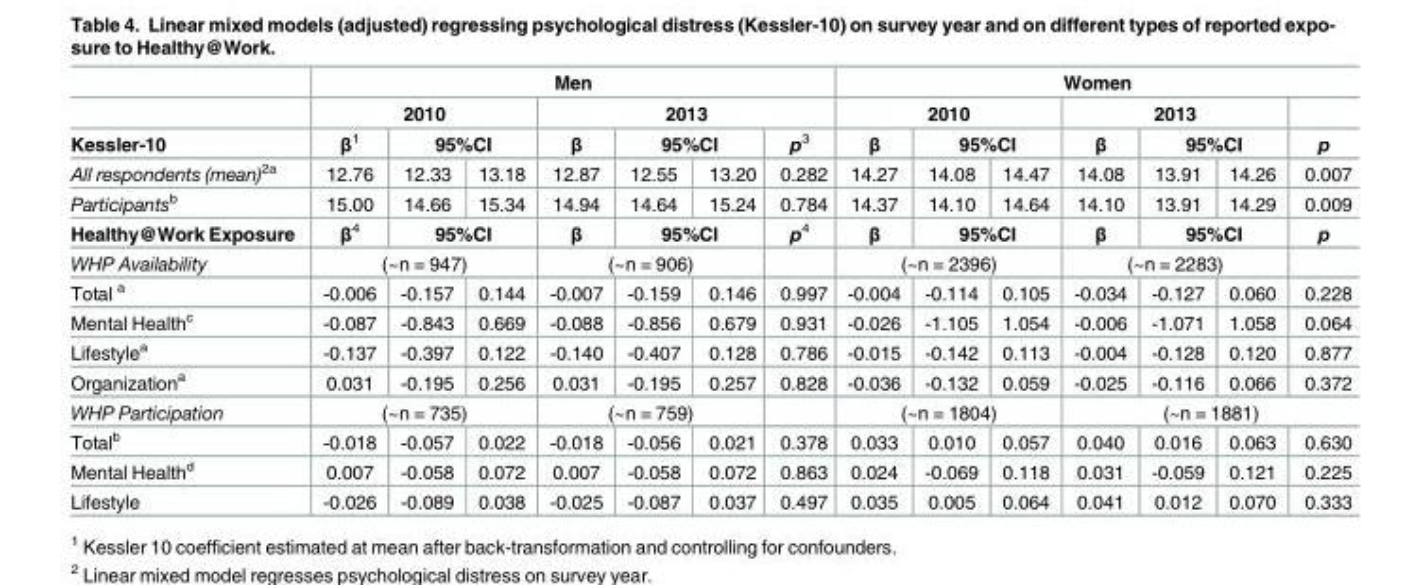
<table><thead><tr><td rowspan="4">Kessler-10 All respondents (mean)<sup>2a</sup></td><td colspan="7">Men</td><td colspan="7">Women</td></tr><tr><td colspan="3">2010</td><td colspan="4">2013</td><td colspan="3">2010</td><td colspan="3">2013</td><td rowspan="3">p 0.007</td></tr><tr><td rowspan="2">β<sup>1</sup> 12.76</td><td colspan="2">95%CI</td><td rowspan="2">β 12.87</td><td colspan="2">95%CI</td><td rowspan="2">p<sup>3</sup> 0.282</td><td rowspan="2">β 14.27</td><td colspan="2">95%CI</td><td rowspan="2">β 14.08</td><td colspan="2">95%CI</td></tr><tr><td>12.33</td><td>13.18</td><td>12.55</td><td>13.20</td><td>14.08</td><td>14.47</td><td>13.91</td><td>14.26</td></tr></thead><tbody><tr><td>Participants<sup>b</sup></td><td>15.00</td><td>14.66</td><td>15.34</td><td>14.94</td><td>14.64</td><td>15.24</td><td>0.784</td><td>14.37</td><td>14.10</td><td>14.64</td><td>14.10</td><td>13.91</td><td>14.29</td><td>0.009</td></tr><tr><td>Healthy@Work Exposure</td><td>β<sup>4</sup></td><td colspan="2">95%CI</td><td>β</td><td colspan="2">95%CI</td><td>p<sup>4</sup></td><td>β</td><td colspan="2">95%CI</td><td>β</td><td colspan="2">95%CI</td><td>p</td></tr><tr><td>WHP Availability</td><td colspan="3">(~n = 947)</td><td colspan="3">(~n = 906)</td><td></td><td colspan="3">(~n = 2396)</td><td colspan="3">(~n = 2283)</td><td></td></tr><tr><td>Total <sup>a</sup></td><td>-0.006</td><td>-0.157</td><td>0.144</td><td>-0.007</td><td>-0.159</td><td>0.146</td><td>0.997</td><td>-0.004</td><td>-0.114</td><td>0.105</td><td>-0.034</td><td>-0.127</td><td>0.060</td><td>0.228</td></tr><tr><td>Mental Health<sup>c</sup></td><td>-0.087</td><td>-0.843</td><td>0.669</td><td>-0.088</td><td>-0.856</td><td>0.679</td><td>0.931</td><td>-0.026</td><td>-1.105</td><td>1.054</td><td>-0.006</td><td>-1.071</td><td>1.058</td><td>0.064</td></tr><tr><td>Lifestyle<sup>a</sup></td><td>-0.137</td><td>-0.397</td><td>0.122</td><td>-0.140</td><td>-0.407</td><td>0.128</td><td>0.786</td><td>-0.015</td><td>-0.142</td><td>0.113</td><td>-0.004</td><td>-0.128</td><td>0.120</td><td>0.877</td></tr><tr><td>Organization<sup>a</sup></td><td>0.031</td><td>-0.195</td><td>0.256</td><td>0.031</td><td>-0.195</td><td>0.257</td><td>0.828</td><td>-0.036</td><td>-0.132</td><td>0.059</td><td>-0.025</td><td>-0.116</td><td>0.066</td><td>0.372</td></tr><tr><td>WHP Participation</td><td colspan="3">(~n = 735)</td><td colspan="3">(~n = 759)</td><td></td><td colspan="3">(~n = 1804)</td><td colspan="4">(~n = 1881)</td></tr><tr><td>Total<sup>b</sup></td><td>-0.018</td><td>-0.057</td><td>0.022</td><td>-0.018</td><td>-0.056</td><td>0.021</td><td>0.378</td><td>0.033</td><td>0.010</td><td>0.057</td><td>0.040</td><td>0.016</td><td>0.063</td><td>0.630</td></tr><tr><td>Mental Health<sup>d</sup></td><td>0.007</td><td>-0.058</td><td>0.072</td><td>0.007</td><td>-0.058</td><td>0.072</td><td>0.863</td><td>0.024</td><td>-0.069</td><td>0.118</td><td>0.031</td><td>-0.059</td><td>0.121</td><td>0.225</td></tr><tr><td>Lifestyle</td><td>-0.026</td><td>-0.089</td><td>0.038</td><td>-0.025</td><td>-0.087</td><td>0.037</td><td>0.497</td><td>0.035</td><td>0.005</td><td>0.064</td><td>0.041</td><td>0.012</td><td>0.070</td><td>0.333</td></tr></tbody></table>